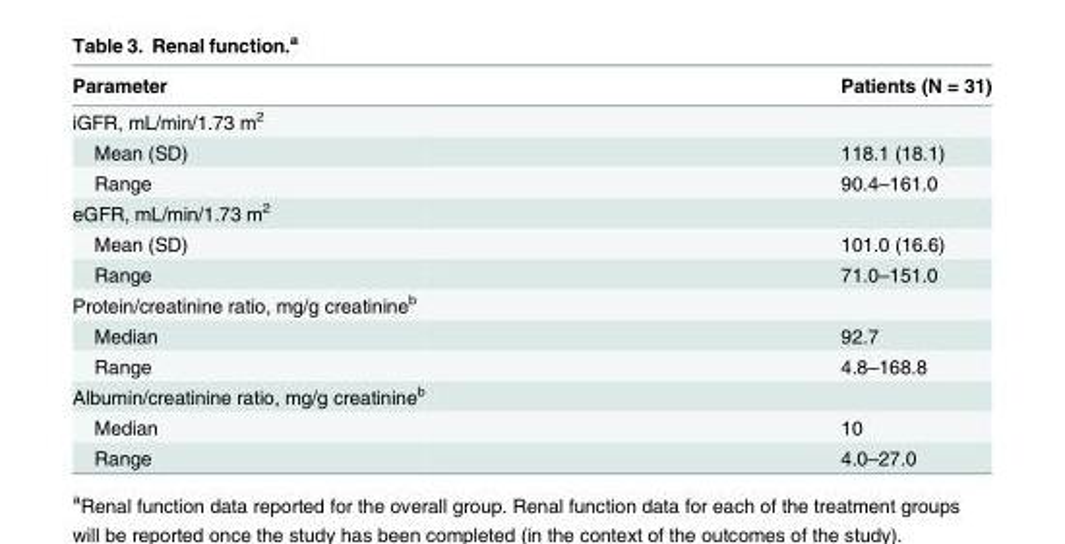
<table><thead><tr><td>Parameter</td><td>Patients (N = 31)</td></tr></thead><tbody><tr><td colspan="2">iGFR, mL/min/1.73 m<sup>2</sup></td></tr><tr><td>Mean (SD)</td><td>118.1 (18.1)</td></tr><tr><td>Range</td><td>90.4–161.0</td></tr><tr><td colspan="2">eGFR, mL/min/1.73 m<sup>2</sup></td></tr><tr><td>Mean (SD)</td><td>101.0 (16.6)</td></tr><tr><td>Range</td><td>71.0–151.0</td></tr><tr><td colspan="2">Protein/creatinine ratio, mg/g creatinine<sup>b</sup></td></tr><tr><td>Median</td><td>92.7</td></tr><tr><td>Range</td><td>4.8–168.8</td></tr><tr><td colspan="2">Albumin/creatinine ratio, mg/g creatinine<sup>b</sup></td></tr><tr><td>Median</td><td>10</td></tr><tr><td>Range</td><td>4.0–27.0</td></tr></tbody></table>